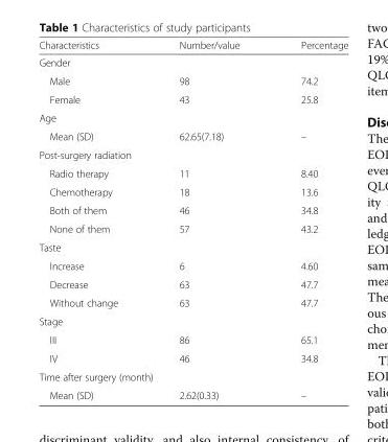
<table><thead><tr><td>Characteristics</td><td>Number/value</td><td>Percentage</td></tr></thead><tbody><tr><td colspan="3">Gender</td></tr><tr><td>Male</td><td>98</td><td>74.2</td></tr><tr><td>Female</td><td>43</td><td>25.8</td></tr><tr><td colspan="3">Age</td></tr><tr><td>Mean (SD)</td><td>62.65(7.18)</td><td>–</td></tr><tr><td colspan="3">Post-surgery radiation</td></tr><tr><td>Radio therapy</td><td>11</td><td>8.40</td></tr><tr><td>Chemotherapy</td><td>18</td><td>13.6</td></tr><tr><td>Both of them</td><td>46</td><td>34.8</td></tr><tr><td>None of them</td><td>57</td><td>43.2</td></tr><tr><td colspan="3">Taste</td></tr><tr><td>Increase</td><td>6</td><td>4.60</td></tr><tr><td>Decrease</td><td>63</td><td>47.7</td></tr><tr><td>Without change</td><td>63</td><td>47.7</td></tr><tr><td colspan="3">Stage</td></tr><tr><td>III</td><td>86</td><td>65.1</td></tr><tr><td>IV</td><td>46</td><td>34.8</td></tr><tr><td colspan="3">Time after surgery (month)</td></tr><tr><td>Mean (SD)</td><td>2.62(0.33)</td><td>–</td></tr></tbody></table>